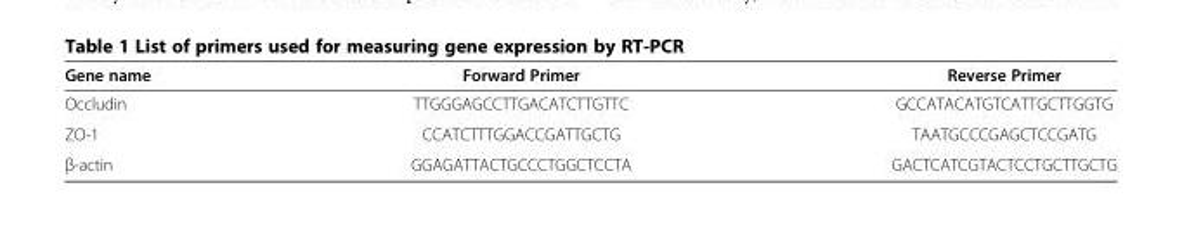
<table><thead><tr><td>Gene name</td><td>Forward Primer</td><td>Reverse Primer</td></tr></thead><tbody><tr><td>Occludin</td><td>TTGGGAGCCTTGACATCTTGTTC</td><td>GCCATACATGTCATTGCTTGGTG</td></tr><tr><td>ZO-1</td><td>CCATCTTTGGACCGATTGCTG</td><td>TAATGCCCGAGCTCCGATG</td></tr><tr><td>β-actin</td><td>GGAGATTACTGCCCTGGCTCCTA</td><td>GACTCATCGTACTCCTGCTTGCTG</td></tr></tbody></table>